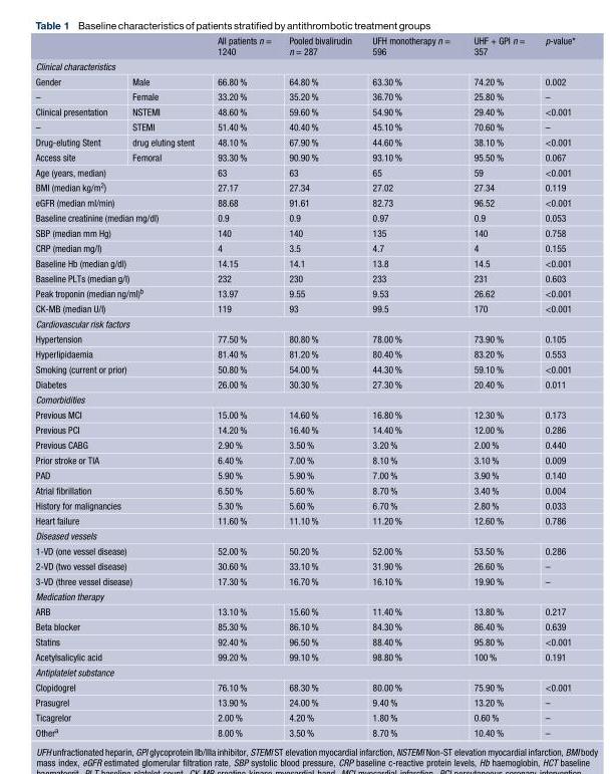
<table><thead><tr><td></td><td></td><td>All patients n = 1240</td><td>Pooled bivalirudin n = 287</td><td>UFH monotherapy n = 596</td><td>UHF + GPI n = 357</td><td>p-value*</td></tr></thead><tbody><tr><td colspan="7">Clinical characteristics</td></tr><tr><td>Gender</td><td>Male</td><td>66.80 %</td><td>64.80 %</td><td>63.30 %</td><td>74.20 %</td><td>0.002</td></tr><tr><td>–</td><td>Female</td><td>33.20 %</td><td>35.20 %</td><td>36.70 %</td><td>25.80 %</td><td>–</td></tr><tr><td>Clinical presentation</td><td>NSTEMI</td><td>48.60 %</td><td>59.60 %</td><td>54.90 %</td><td>29.40 %</td><td>&lt;0.001</td></tr><tr><td>–</td><td>STEMI</td><td>51.40 %</td><td>40.40 %</td><td>45.10 %</td><td>70.60 %</td><td>–</td></tr><tr><td>Drug-eluting Stent</td><td>drug eluting stent</td><td>48.10 %</td><td>67.90 %</td><td>44.60 %</td><td>38.10 %</td><td>&lt;0.001</td></tr><tr><td>Access site</td><td>Femoral</td><td>93.30 %</td><td>90.90 %</td><td>93.10 %</td><td>95.50 %</td><td>0.067</td></tr><tr><td colspan="2">Age (years, median)</td><td>63</td><td>63</td><td>65</td><td>59</td><td>&lt;0.001</td></tr><tr><td colspan="2">BMI (median kg/m<sup>2</sup>)</td><td>27.17</td><td>27.34</td><td>27.02</td><td>27.34</td><td>0.119</td></tr><tr><td colspan="2">eGFR (median ml/min)</td><td>88.68</td><td>91.61</td><td>82.73</td><td>96.52</td><td>&lt;0.001</td></tr><tr><td colspan="2">Baseline creatinine (median mg/dl)</td><td>0.9</td><td>0.9</td><td>0.97</td><td>0.9</td><td>0.053</td></tr><tr><td colspan="2">SBP (median mm Hg)</td><td>140</td><td>140</td><td>135</td><td>140</td><td>0.758</td></tr><tr><td colspan="2">CRP (median mg/l)</td><td>4</td><td>3.5</td><td>4.7</td><td>4</td><td>0.155</td></tr><tr><td colspan="2">Baseline Hb (median g/dl)</td><td>14.15</td><td>14.1</td><td>13.8</td><td>14.5</td><td>&lt;0.001</td></tr><tr><td colspan="2">Baseline PLTs (median g/l)</td><td>232</td><td>230</td><td>233</td><td>231</td><td>0.603</td></tr><tr><td colspan="2">Peak troponin (median ng/ml)<sup>b</sup></td><td>13.97</td><td>9.55</td><td>9.53</td><td>26.62</td><td>&lt;0.001</td></tr><tr><td colspan="2">CK-MB (median U/l)</td><td>119</td><td>93</td><td>99.5</td><td>170</td><td>&lt;0.001</td></tr><tr><td colspan="7">Cardiovascular risk factors</td></tr><tr><td colspan="2">Hypertension</td><td>77.50 %</td><td>80.80 %</td><td>78.00 %</td><td>73.90 %</td><td>0.105</td></tr><tr><td colspan="2">Hyperlipidaemia</td><td>81.40 %</td><td>81.20 %</td><td>80.40 %</td><td>83.20 %</td><td>0.553</td></tr><tr><td colspan="2">Smoking (current or prior)</td><td>50.80 %</td><td>54.00 %</td><td>44.30 %</td><td>59.10 %</td><td>&lt;0.001</td></tr><tr><td colspan="2">Diabetes</td><td>26.00 %</td><td>30.30 %</td><td>27.30 %</td><td>20.40 %</td><td>0.011</td></tr><tr><td colspan="7">Comorbidities</td></tr><tr><td colspan="2">Previous MCI</td><td>15.00 %</td><td>14.60 %</td><td>16.80 %</td><td>12.30 %</td><td>0.173</td></tr><tr><td colspan="2">Previous PCI</td><td>14.20 %</td><td>16.40 %</td><td>14.40 %</td><td>12.00 %</td><td>0.286</td></tr><tr><td colspan="2">Previous CABG</td><td>2.90 %</td><td>3.50 %</td><td>3.20 %</td><td>2.00 %</td><td>0.440</td></tr><tr><td colspan="2">Prior stroke or TIA</td><td>6.40 %</td><td>7.00 %</td><td>8.10 %</td><td>3.10 %</td><td>0.009</td></tr><tr><td colspan="2">PAD</td><td>5.90 %</td><td>5.90 %</td><td>7.00 %</td><td>3.90 %</td><td>0.140</td></tr><tr><td colspan="2">Atrial fibrillation</td><td>6.50 %</td><td>5.60 %</td><td>8.70 %</td><td>3.40 %</td><td>0.004</td></tr><tr><td colspan="2">History for malignancies</td><td>5.30 %</td><td>5.60 %</td><td>6.70 %</td><td>2.80 %</td><td>0.033</td></tr><tr><td colspan="2">Heart failure</td><td>11.60 %</td><td>11.10 %</td><td>11.20 %</td><td>12.60 %</td><td>0.786</td></tr><tr><td colspan="7">Diseased vessels</td></tr><tr><td colspan="2">1-VD (one vessel disease)</td><td>52.00 %</td><td>50.20 %</td><td>52.00 %</td><td>53.50 %</td><td>0.286</td></tr><tr><td colspan="2">2-VD (two vessel disease)</td><td>30.60 %</td><td>33.10 %</td><td>31.90 %</td><td>26.60 %</td><td>–</td></tr><tr><td colspan="2">3-VD (three vessel disease)</td><td>17.30 %</td><td>16.70 %</td><td>16.10 %</td><td>19.90 %</td><td>–</td></tr><tr><td colspan="7">Medication therapy</td></tr><tr><td colspan="2">ARB</td><td>13.10 %</td><td>15.60 %</td><td>11.40 %</td><td>13.80 %</td><td>0.217</td></tr><tr><td colspan="2">Beta blocker</td><td>85.30 %</td><td>86.10 %</td><td>84.30 %</td><td>86.40 %</td><td>0.639</td></tr><tr><td colspan="2">Statins</td><td>92.40 %</td><td>96.50 %</td><td>88.40 %</td><td>95.80 %</td><td>&lt;0.001</td></tr><tr><td colspan="2">Acetylsalicylic acid</td><td>99.20 %</td><td>99.10 %</td><td>98.80 %</td><td>100 %</td><td>0.191</td></tr><tr><td colspan="7">Antiplatelet substance</td></tr><tr><td colspan="2">Clopidogrel</td><td>76.10 %</td><td>68.30 %</td><td>80.00 %</td><td>75.90 %</td><td>&lt;0.001</td></tr><tr><td colspan="2">Prasugrel</td><td>13.90 %</td><td>24.00 %</td><td>9.40 %</td><td>13.20 %</td><td>–</td></tr><tr><td colspan="2">Ticagrelor</td><td>2.00 %</td><td>4.20 %</td><td>1.80 %</td><td>0.60 %</td><td>–</td></tr><tr><td colspan="2">Other<sup>a</sup></td><td>8.00 %</td><td>3.50 %</td><td>8.70 %</td><td>10.40 %</td><td>–</td></tr></tbody></table>